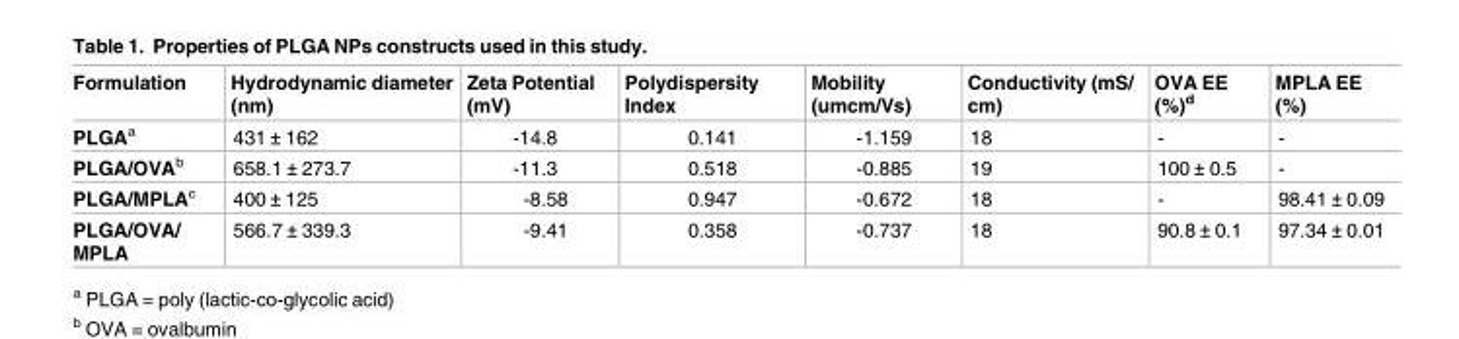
<table><thead><tr><td>Formulation</td><td>Hydrodynamic diameter (nm)</td><td>Zeta Potential (mV)</td><td>Polydispersity Index</td><td>Mobility (umcm/Vs)</td><td>Conductivity (mS/ cm)</td><td>OVA EE (%)<sup>d</sup></td><td>MPLA EE (%)</td></tr></thead><tbody><tr><td>PLGA<sup>a</sup></td><td>431 ± 162</td><td>-14.8</td><td>0.141</td><td>-1.159</td><td>18</td><td>-</td><td>-</td></tr><tr><td>PLGA/OVA<sup>b</sup></td><td>658.1 ± 273.7</td><td>-11.3</td><td>0.518</td><td>-0.885</td><td>19</td><td>100 ± 0.5</td><td>-</td></tr><tr><td>PLGA/MPLA<sup>c</sup></td><td>400 ± 125</td><td>-8.58</td><td>0.947</td><td>-0.672</td><td>18</td><td>-</td><td>98.41 ± 0.09</td></tr><tr><td>PLGA/OVA/ MPLA</td><td>566.7 ± 339.3</td><td>-9.41</td><td>0.358</td><td>-0.737</td><td>18</td><td>90.8 ± 0.1</td><td>97.34 ± 0.01</td></tr></tbody></table>